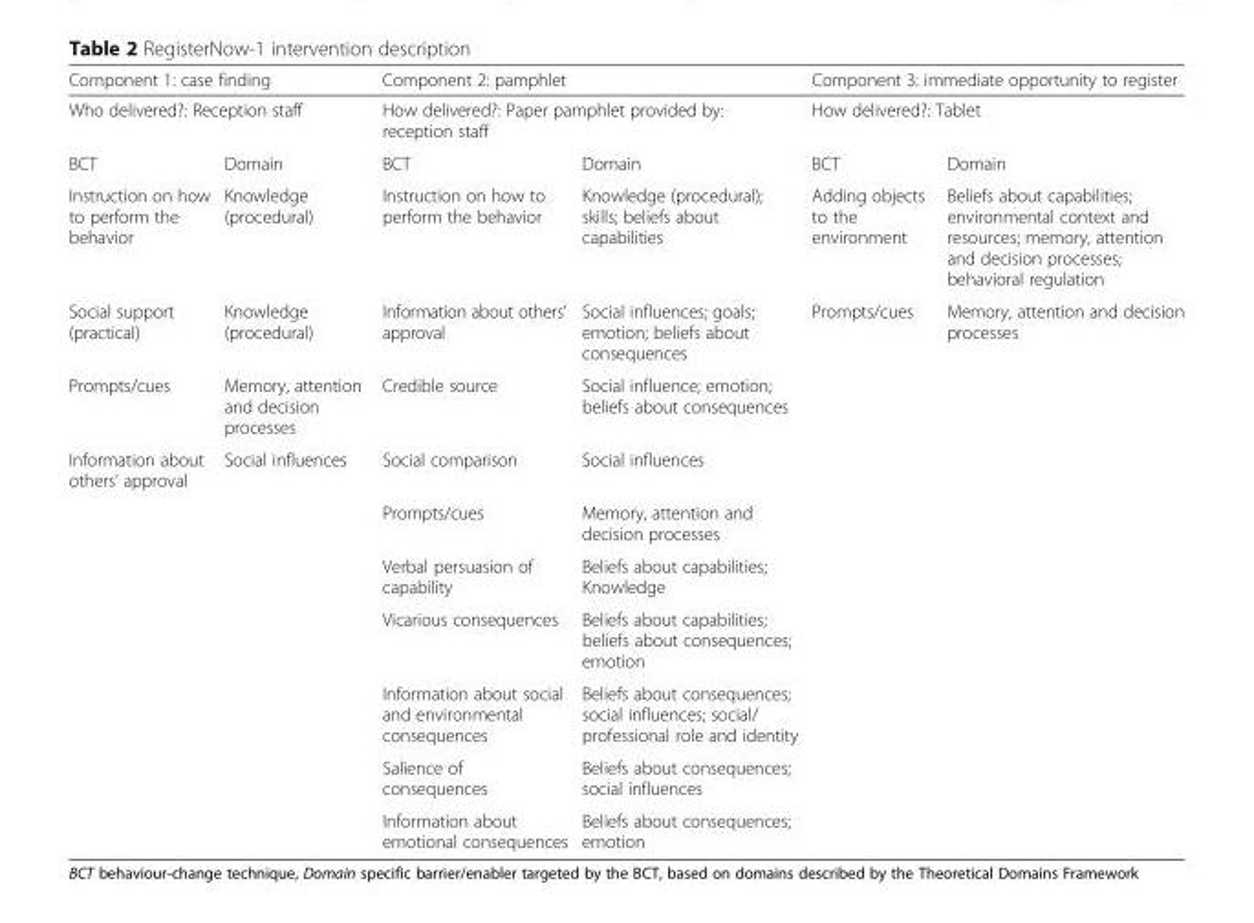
<table><thead><tr><td rowspan="2" colspan="2">Component 1: case finding Who delivered?: Reception staff</td><td rowspan="2" colspan="2">Component 2: pamphlet How delivered?: Paper pamphlet provided by: reception staff</td><td rowspan="2" colspan="2">Component 3: immediate opportunity to register How delivered?: Tablet</td></tr><tr></tr><tr><td>BCT</td><td>Domain</td><td>BCT</td><td>Domain</td><td>BCT</td><td>Domain</td></tr></thead><tbody><tr><td>Instruction on how to perform the behavior</td><td>Knowledge (procedural)</td><td>Instruction on how to perform the behavior</td><td>Knowledge (procedural); skills; beliefs about capabilities</td><td>Adding objects to the environment</td><td>Beliefs about capabilities; environmental context and resources; memory, attention and decision processes; behavioral regulation</td></tr><tr><td>Social support (practical)</td><td>Knowledge (procedural)</td><td>Information about others’ approval</td><td>Social influences; goals; emotion; beliefs about consequences</td><td>Prompts/cues</td><td>Memory, attention and decision processes</td></tr><tr><td>Prompts/cues</td><td>Memory, attention and decision processes</td><td>Credible source</td><td>Social influence; emotion; beliefs about consequences</td><td></td><td></td></tr><tr><td rowspan="7">Information about others’ approval</td><td>Social influences</td><td>Social comparison</td><td>Social influences</td><td></td><td></td></tr><tr><td></td><td>Prompts/cues</td><td>Memory, attention and decision processes</td><td></td><td></td></tr><tr><td></td><td>Verbal persuasion of capability</td><td>Beliefs about capabilities; Knowledge</td><td></td><td></td></tr><tr><td></td><td>Vicarious consequences</td><td>Beliefs about capabilities; beliefs about consequences; emotion</td><td></td><td></td></tr><tr><td></td><td>Information about social and environmental consequences</td><td>Beliefs about consequences; social influences; social/ professional role and identity</td><td></td><td></td></tr><tr><td></td><td>Salience of consequences</td><td>Beliefs about consequences; social influences</td><td></td><td></td></tr><tr><td></td><td>Information about emotional consequences</td><td>Beliefs about consequences; emotion</td><td></td><td></td></tr></tbody></table>